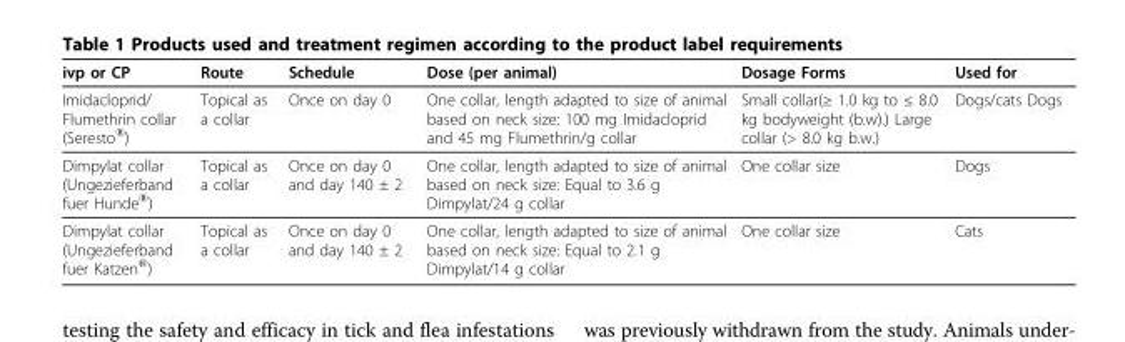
<table><thead><tr><td>ivp or CP</td><td>Route</td><td>Schedule</td><td>Dose (per animal)</td><td>Dosage Forms</td><td>Used for</td></tr></thead><tbody><tr><td>Imidacloprid/ Flumethrin collar (Seresto<sup>®</sup>)</td><td>Topical as a collar</td><td>Once on day 0</td><td>One collar, length adapted to size of animal based on neck size: 100 mg Imidacloprid and 45 mg Flumethrin/g collar</td><td>Small collar(≥ 1.0 kg to ≤ 8.0 kg bodyweight (b.w).) Large collar (&gt; 8.0 kg b.w.)</td><td>Dogs/cats Dogs</td></tr><tr><td>Dimpylat collar (Ungezieferband fuer Hunde<sup>®</sup>)</td><td>Topical as a collar</td><td>Once on day 0 and day 140 ± 2</td><td>One collar, length adapted to size of animal based on neck size: Equal to 3.6 g Dimpylat/24 g collar</td><td>One collar size</td><td>Dogs</td></tr><tr><td>Dimpylat collar (Ungezieferband fuer Katzen<sup>®</sup>)</td><td>Topical as a collar</td><td>Once on day 0 and day 140 ± 2</td><td>One collar, length adapted to size of animal based on neck size: Equal to 2.1 g Dimpylat/14 g collar</td><td>One collar size</td><td>Cats</td></tr></tbody></table>